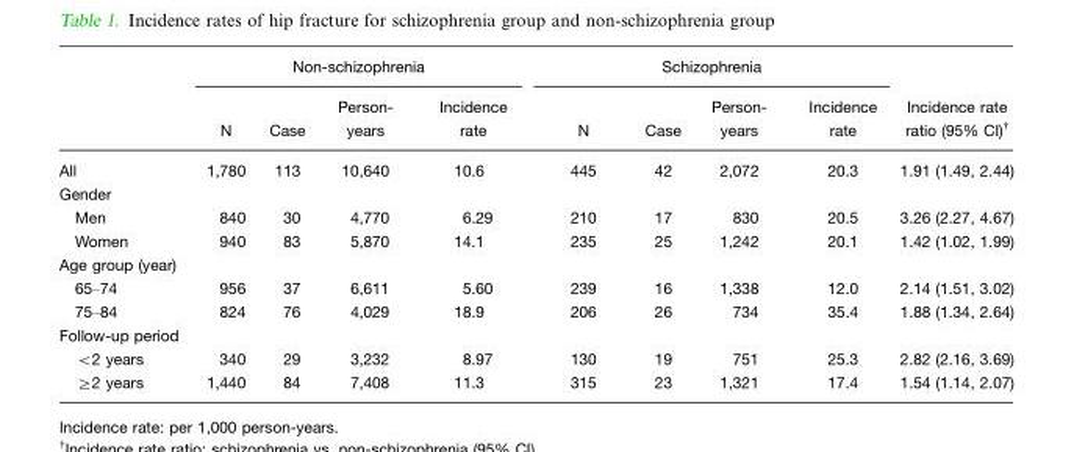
<table><thead><tr><td rowspan="2"></td><td colspan="4">Non-schizophrenia</td><td colspan="4">Schizophrenia</td><td rowspan="2">Incidence rate ratio (95% CI)†</td></tr><tr><td>N</td><td>Case</td><td>Person- years</td><td>Incidence rate</td><td>N</td><td>Case</td><td>Person- years</td><td>Incidence rate</td></tr></thead><tbody><tr><td>All</td><td>1,780</td><td>113</td><td>10,640</td><td>10.6</td><td>445</td><td>42</td><td>2,072</td><td>20.3</td><td>1.91 (1.49, 2.44)</td></tr><tr><td colspan="10">Gender</td></tr><tr><td>Men</td><td>840</td><td>30</td><td>4,770</td><td>6.29</td><td>210</td><td>17</td><td>830</td><td>20.5</td><td>3.26 (2.27, 4.67)</td></tr><tr><td>Women</td><td>940</td><td>83</td><td>5,870</td><td>14.1</td><td>235</td><td>25</td><td>1,242</td><td>20.1</td><td>1.42 (1.02, 1.99)</td></tr><tr><td colspan="10">Age group (year)</td></tr><tr><td>65–74</td><td>956</td><td>37</td><td>6,611</td><td>5.60</td><td>239</td><td>16</td><td>1,338</td><td>12.0</td><td>2.14 (1.51, 3.02)</td></tr><tr><td>75–84</td><td>824</td><td>76</td><td>4,029</td><td>18.9</td><td>206</td><td>26</td><td>734</td><td>35.4</td><td>1.88 (1.34, 2.64)</td></tr><tr><td colspan="10">Follow-up period</td></tr><tr><td>&lt;2 years</td><td>340</td><td>29</td><td>3,232</td><td>8.97</td><td>130</td><td>19</td><td>751</td><td>25.3</td><td>2.82 (2.16, 3.69)</td></tr><tr><td>≥2 years</td><td>1,440</td><td>84</td><td>7,408</td><td>11.3</td><td>315</td><td>23</td><td>1,321</td><td>17.4</td><td>1.54 (1.14, 2.07)</td></tr></tbody></table>